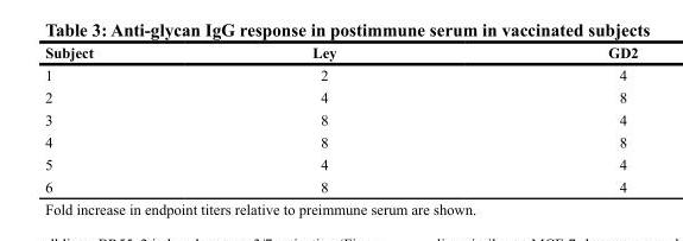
<table><thead><tr><td>Subject</td><td>Ley</td><td>GD2</td></tr></thead><tbody><tr><td>1</td><td>2</td><td>4</td></tr><tr><td>2</td><td>4</td><td>8</td></tr><tr><td>3</td><td>8</td><td>4</td></tr><tr><td>4</td><td>8</td><td>8</td></tr><tr><td>5</td><td>4</td><td>4</td></tr><tr><td>6</td><td>8</td><td>4</td></tr></tbody></table>